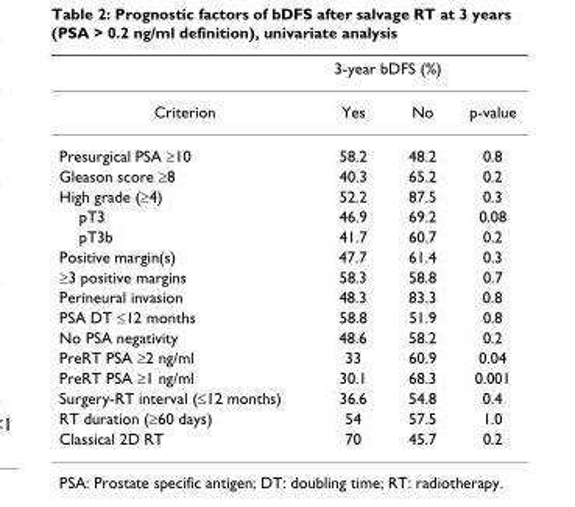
<table><thead><tr><td rowspan="2">Criterion</td><td colspan="2">3-year bDFS (%)</td><td rowspan="2">p-value</td></tr><tr><td>Yes</td><td>No</td></tr></thead><tbody><tr><td>Presurgical PSA ≥10</td><td>58.2</td><td>48.2</td><td>0.8</td></tr><tr><td>Gleason score ≥8</td><td>40.3</td><td>65.2</td><td>0.2</td></tr><tr><td>High grade (≥4)</td><td>52.2</td><td>87.5</td><td>0.3</td></tr><tr><td>pT3</td><td>46.9</td><td>69.2</td><td>0.08</td></tr><tr><td>pT3b</td><td>41.7</td><td>60.7</td><td>0.2</td></tr><tr><td>Positive margin(s)</td><td>47.7</td><td>61.4</td><td>0.3</td></tr><tr><td>≥3 positive margins</td><td>58.3</td><td>58.8</td><td>0.7</td></tr><tr><td>Perineural invasion</td><td>48.3</td><td>83.3</td><td>0.8</td></tr><tr><td>PSA DT ≤12 months</td><td>58.8</td><td>51.9</td><td>0.8</td></tr><tr><td>No PSA negativity</td><td>48.6</td><td>58.2</td><td>0.2</td></tr><tr><td>PreRT PSA ≥2 ng/ml</td><td>33</td><td>60.9</td><td>0.04</td></tr><tr><td>PreRT PSA ≥1 ng/ml</td><td>30.1</td><td>68.3</td><td>0.001</td></tr><tr><td>Surgery-RT interval (≤12 months)</td><td>36.6</td><td>54.8</td><td>0.4</td></tr><tr><td>RT duration (≥60 days)</td><td>54</td><td>57.5</td><td>1.0</td></tr><tr><td>Classical 2D RT</td><td>70</td><td>45.7</td><td>0.2</td></tr></tbody></table>